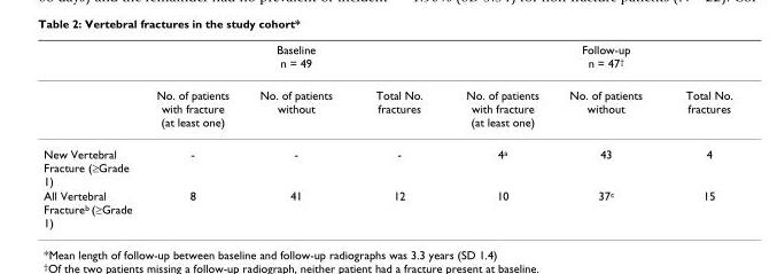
<table><thead><tr><td rowspan="2"></td><td colspan="3">Baseline n = 49</td><td colspan="3">Follow-up n = 47<sup>†</sup></td></tr><tr><td>No. of patients with fracture (at least one)</td><td>No. of patients without</td><td>Total No. fractures</td><td>No. of patients with fracture (at least one)</td><td>No. of patients without</td><td>Total No. fractures</td></tr></thead><tbody><tr><td>New Vertebral Fracture (≥Grade 1)</td><td>-</td><td>-</td><td>-</td><td>4<sup>a</sup></td><td>43</td><td>4</td></tr><tr><td>All Vertebral Fracture<sup>b</sup> (≥Grade 1)</td><td>8</td><td>41</td><td>12</td><td>10</td><td>37<sup>c</sup></td><td>15</td></tr></tbody></table>